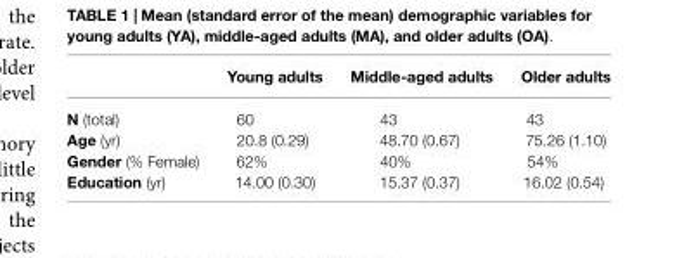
<table><thead><tr><td></td><td>Young adults</td><td>Middle-aged adults</td><td>Older adults</td></tr></thead><tbody><tr><td>N (total)</td><td>60</td><td>43</td><td>43</td></tr><tr><td>Age (yr)</td><td>20.8 (0.29)</td><td>48.70 (0.67)</td><td>75.26 (1.10)</td></tr><tr><td>Gender (% Female)</td><td>62%</td><td>40%</td><td>54%</td></tr><tr><td>Education (yr)</td><td>14.00 (0.30)</td><td>15.37 (0.37)</td><td>16.02 (0.54)</td></tr></tbody></table>